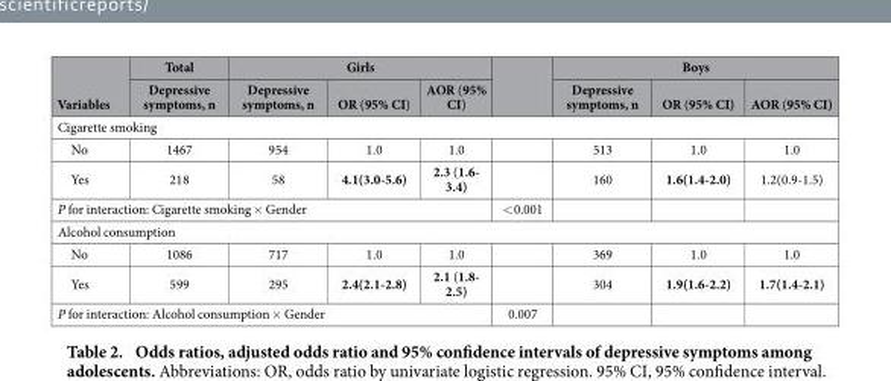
<table><thead><tr><td rowspan="2">Variables</td><td rowspan="2">Total Depressive symptoms, n</td><td colspan="3">Girls</td><td rowspan="2"></td><td colspan="3">Boys</td></tr><tr><td>Depressive symptoms, n</td><td>OR (95% CI)</td><td>AOR (95% CI)</td><td>Depressive symptoms, n</td><td>OR (95% CI)</td><td>AOR (95% CI)</td></tr></thead><tbody><tr><td colspan="9">Cigarette smoking</td></tr><tr><td>No</td><td>1467</td><td>954</td><td>1.0</td><td>1.0</td><td></td><td>513</td><td>1.0</td><td>1.0</td></tr><tr><td>Yes</td><td>218</td><td>58</td><td>4.1(3.0-5.6)</td><td>2.3 (1.6- 3.4)</td><td></td><td>160</td><td>1.6(1.4-2.0)</td><td>1.2(0.9-1.5)</td></tr><tr><td colspan="5">P for interaction: Cigarette smoking × Gender</td><td>&lt; 0.001</td><td></td><td></td><td></td></tr><tr><td colspan="9">Alcohol consumption</td></tr><tr><td>No</td><td>1086</td><td>717</td><td>1.0</td><td>1.0</td><td></td><td>369</td><td>1.0</td><td>1.0</td></tr><tr><td>Yes</td><td>599</td><td>295</td><td>2.4(2.1-2.8)</td><td>2.1 (1.8- 2.5)</td><td></td><td>304</td><td>1.9(1.6-2.2)</td><td>1.7(1.4-2.1)</td></tr><tr><td colspan="5">P for interaction: Alcohol consumption × Gender</td><td>0.007</td><td></td><td></td><td></td></tr></tbody></table>